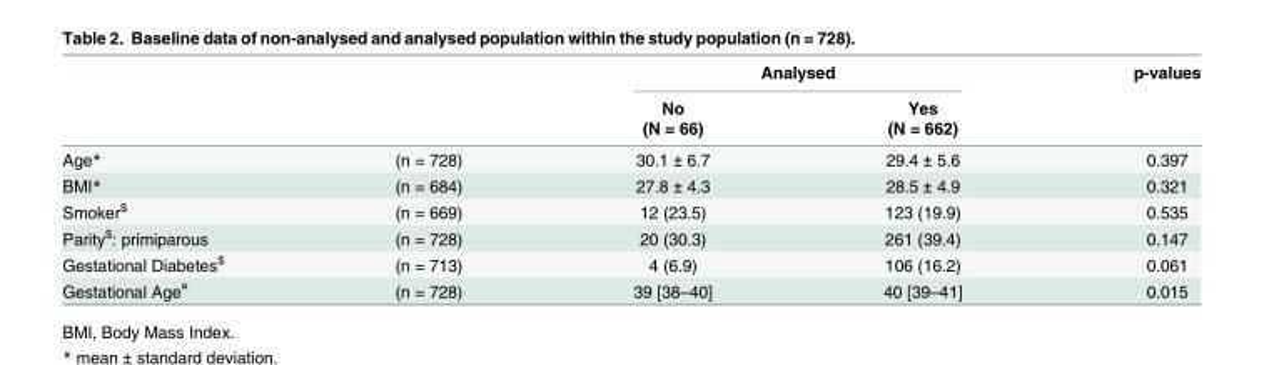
<table><thead><tr><td rowspan="3"></td><td rowspan="3"></td><td colspan="2">Analysed</td><td rowspan="3">p-values</td></tr><tr><td rowspan="2">No (N = 66)</td><td rowspan="2">Yes (N = 662)</td></tr><tr></tr></thead><tbody><tr><td>Age*</td><td>(n = 728)</td><td>30.1 ± 6.7</td><td>29.4 ± 5.6</td><td>0.397</td></tr><tr><td>BMI*</td><td>(n = 684)</td><td>27.8 ± 4.3</td><td>28.5 ± 4.9</td><td>0.321</td></tr><tr><td>Smoker<sup>$</sup></td><td>(n = 669)</td><td>12 (23.5)</td><td>123 (19.9)</td><td>0.535</td></tr><tr><td>Parity<sup>$</sup>: primiparous</td><td>(n = 728)</td><td>20 (30.3)</td><td>261 (39.4)</td><td>0.147</td></tr><tr><td>Gestational Diabetes<sup>$</sup></td><td>(n = 713)</td><td>4 (6.9)</td><td>106 (16.2)</td><td>0.061</td></tr><tr><td>Gestational Age<sup>¤</sup></td><td>(n = 728)</td><td>39 [38–40]</td><td>40 [39–41]</td><td>0.015</td></tr></tbody></table>